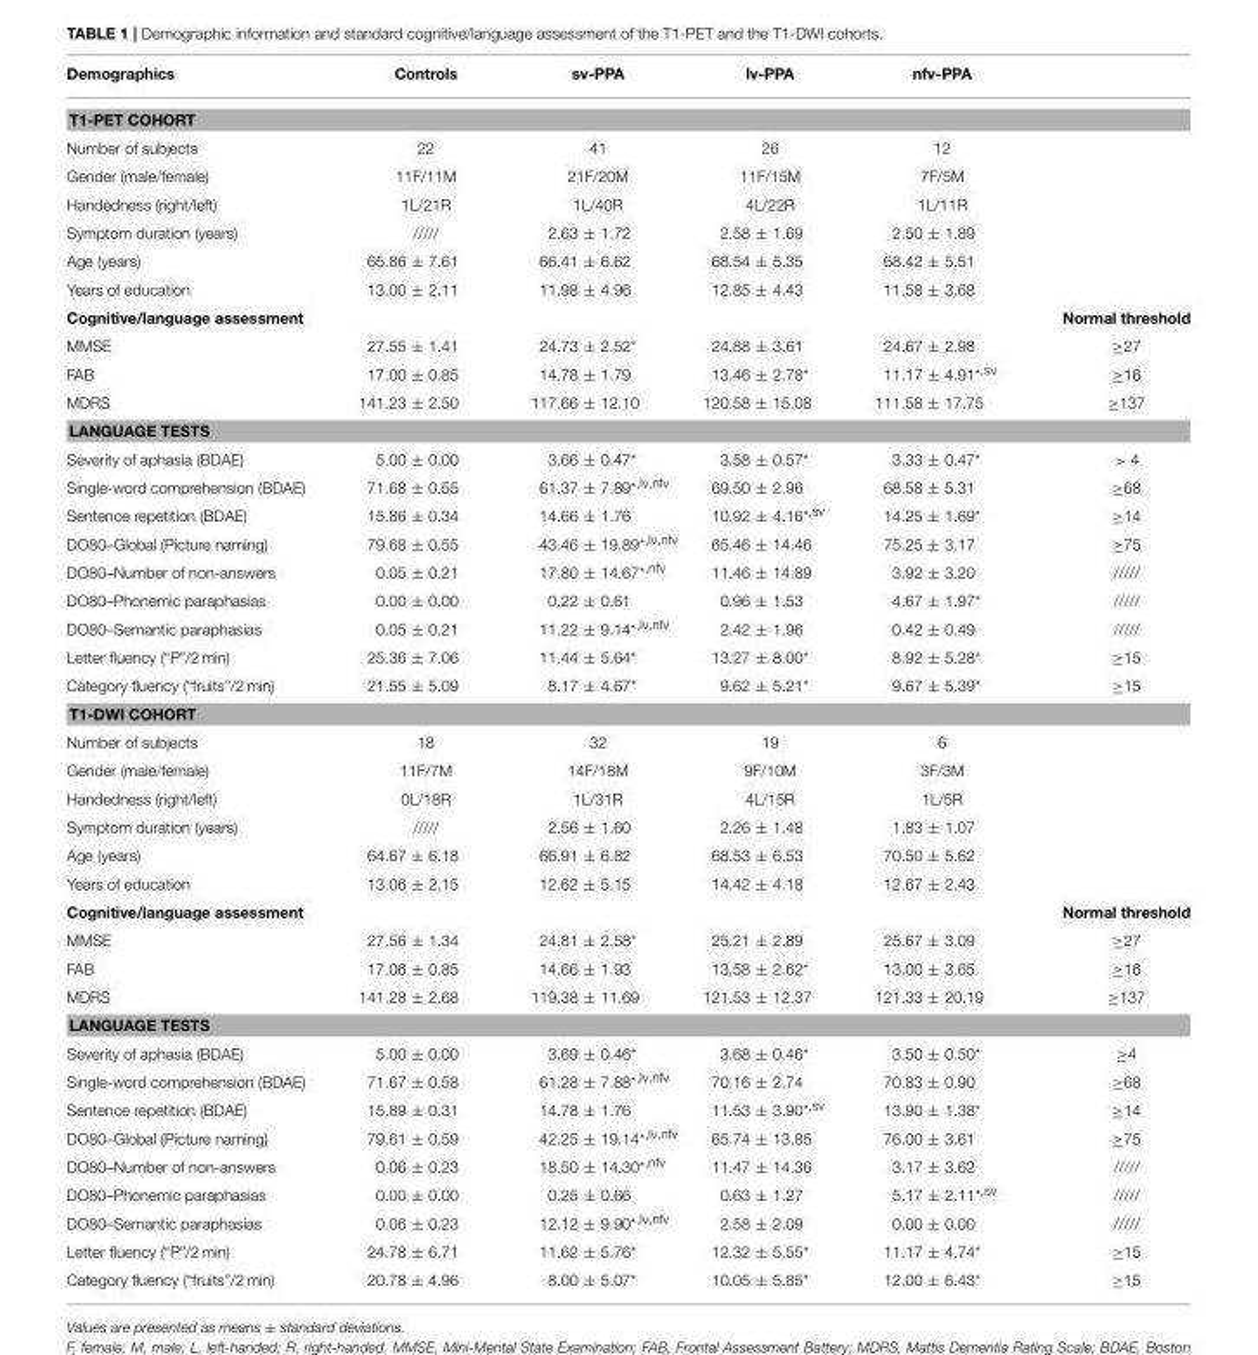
<table><thead><tr><td>Demographics</td><td>Controls</td><td>sv-PPA</td><td>lv-PPA</td><td>nfv-PPA</td><td></td></tr></thead><tbody><tr><td colspan="6">T1-PET COHORT</td></tr><tr><td>Number of subjects</td><td>22</td><td>41</td><td>26</td><td>12</td><td></td></tr><tr><td>Gender (male/female)</td><td>11F/11M</td><td>21F/20M</td><td>11F/15M</td><td>7F/5M</td><td></td></tr><tr><td>Handedness (right/left)</td><td>1L/21R</td><td>1L/40R</td><td>4L/22R</td><td>1L/11R</td><td></td></tr><tr><td>Symptom duration (years)</td><td>/////</td><td>2.63 ± 1.72</td><td>2.58 ± 1.69</td><td>2.50 ± 1.89</td><td></td></tr><tr><td>Age (years)</td><td>65.86 ± 7.61</td><td>66.41 ± 6.62</td><td>68.54 ± 5.35</td><td>68.42 ± 5.51</td><td></td></tr><tr><td>Years of education</td><td>13.00 ± 2.11</td><td>11.98 ± 4.96</td><td>12.85 ± 4.43</td><td>11.58 ± 3.68</td><td></td></tr><tr><td colspan="5">Cognitive/language assessment</td><td>Normal threshold</td></tr><tr><td>MMSE</td><td>27.55 ± 1.41</td><td>24.73 ± 2.52*</td><td>24.88 ± 3.61</td><td>24.67 ± 2.98</td><td>≥27</td></tr><tr><td>FAB</td><td>17.00 ± 0.85</td><td>14.78 ± 1.79</td><td>13.46 ± 2.78*</td><td>11.17 ± 4.91<sup>*,sv</sup></td><td>≥16</td></tr><tr><td>MDRS</td><td>141.23 ± 2.50</td><td>117.66 ± 12.10</td><td>120.58 ± 15.08</td><td>111.58 ± 17.75</td><td>≥137</td></tr><tr><td colspan="6">LANGUAGE TESTS</td></tr><tr><td>Severity of aphasia (BDAE)</td><td>5.00 ± 0.00</td><td>3.66 ± 0.47*</td><td>3.58 ± 0.57*</td><td>3.33 ± 0.47*</td><td>&gt; 4</td></tr><tr><td>Single-word comprehension (BDAE)</td><td>71.68 ± 0.55</td><td>61.37 ± 7.89<sup>*,lv,nfv</sup></td><td>69.50 ± 2.96</td><td>68.58 ± 5.31</td><td>≥68</td></tr><tr><td>Sentence repetition (BDAE)</td><td>15.86 ± 0.34</td><td>14.66 ± 1.76</td><td>10.92 ± 4.16<sup>*,sv</sup></td><td>14.25 ± 1.69*</td><td>≥14</td></tr><tr><td>DO80–Global (Picture naming)</td><td>79.68 ± 0.55</td><td>43.46 ± 19.89<sup>*,lv,nfv</sup></td><td>65.46 ± 14.46</td><td>75.25 ± 3.17</td><td>≥75</td></tr><tr><td>DO80–Number of non-answers</td><td>0.05 ± 0.21</td><td>17.80 ± 14.67<sup>*,nfv</sup></td><td>11.46 ± 14.89</td><td>3.92 ± 3.20</td><td>/////</td></tr><tr><td>DO80–Phonemic paraphasias</td><td>0.00 ± 0.00</td><td>0.22 ± 0.61</td><td>0.96 ± 1.53</td><td>4.67 ± 1.97*</td><td>/////</td></tr><tr><td>DO80–Semantic paraphasias</td><td>0.05 ± 0.21</td><td>11.22 ± 9.14<sup>*,lv,nfv</sup></td><td>2.42 ± 1.96</td><td>0.42 ± 0.49</td><td>/////</td></tr><tr><td>Letter fluency (“P”/2 min)</td><td>25.36 ± 7.06</td><td>11.44 ± 5.64*</td><td>13.27 ± 8.00*</td><td>8.92 ± 5.28*</td><td>≥15</td></tr><tr><td>Category fluency (“fruits”/2 min)</td><td>21.55 ± 5.09</td><td>8.17 ± 4.67*</td><td>9.62 ± 5.21*</td><td>9.67 ± 5.39*</td><td>≥15</td></tr><tr><td colspan="6">T1-DWI COHORT</td></tr><tr><td>Number of subjects</td><td>18</td><td>32</td><td>19</td><td>6</td><td></td></tr><tr><td>Gender (male/female)</td><td>11F/7M</td><td>14F/18M</td><td>9F/10M</td><td>3F/3M</td><td></td></tr><tr><td>Handedness (right/left)</td><td>0L/18R</td><td>1L/31R</td><td>4L/15R</td><td>1L/5R</td><td></td></tr><tr><td>Symptom duration (years)</td><td>/////</td><td>2.56 ± 1.60</td><td>2.26 ± 1.48</td><td>1.83 ± 1.07</td><td></td></tr><tr><td>Age (years)</td><td>64.67 ± 6.18</td><td>66.91 ± 6.82</td><td>68.53 ± 6.53</td><td>70.50 ± 5.62</td><td></td></tr><tr><td>Years of education</td><td>13.06 ± 2.15</td><td>12.62 ± 5.15</td><td>14.42 ± 4.18</td><td>12.67 ± 2.43</td><td></td></tr><tr><td colspan="5">Cognitive/language assessment</td><td>Normal threshold</td></tr><tr><td>MMSE</td><td>27.56 ± 1.34</td><td>24.81 ± 2.58*</td><td>25.21 ± 2.89</td><td>25.67 ± 3.09</td><td>≥27</td></tr><tr><td>FAB</td><td>17.06 ± 0.85</td><td>14.66 ± 1.93</td><td>13.58 ± 2.62*</td><td>13.00 ± 3.65</td><td>≥16</td></tr><tr><td>MDRS</td><td>141.28 ± 2.68</td><td>119.38 ± 11.69</td><td>121.53 ± 12.37</td><td>121.33 ± 20.19</td><td>≥137</td></tr><tr><td colspan="6">LANGUAGE TESTS</td></tr><tr><td>Severity of aphasia (BDAE)</td><td>5.00 ± 0.00</td><td>3.69 ± 0.46*</td><td>3.68 ± 0.46*</td><td>3.50 ± 0.50*</td><td>≥4</td></tr><tr><td>Single-word comprehension (BDAE)</td><td>71.67 ± 0.58</td><td>61.28 ± 7.88<sup>*,lv,nfv</sup></td><td>70.16 ± 2.74</td><td>70.83 ± 0.90</td><td>≥68</td></tr><tr><td>Sentence repetition (BDAE)</td><td>15.89 ± 0.31</td><td>14.78 ± 1.76</td><td>11.53 ± 3.90<sup>*,sv</sup></td><td>13.90 ± 1.38*</td><td>≥14</td></tr><tr><td>DO80–Global (Picture naming)</td><td>79.61 ± 0.59</td><td>42.25 ± 19.14<sup>*,lv,nfv</sup></td><td>65.74 ± 13.85</td><td>76.00 ± 3.61</td><td>≥75</td></tr><tr><td>DO80–Number of non-answers</td><td>0.06 ± 0.23</td><td>18.50 ± 14.30<sup>*,nfv</sup></td><td>11.47 ± 14.36</td><td>3.17 ± 3.62</td><td>/////</td></tr><tr><td>DO80–Phonemic paraphasias</td><td>0.00 ± 0.00</td><td>0.25 ± 0.66</td><td>0.63 ± 1.27</td><td>5.17 ± 2.11<sup>*,sv</sup></td><td>/////</td></tr><tr><td>DO80–Semantic paraphasias</td><td>0.06 ± 0.23</td><td>12.12 ± 9.90<sup>*,lv,nfv</sup></td><td>2.58 ± 2.09</td><td>0.00 ± 0.00</td><td>/////</td></tr><tr><td>Letter fluency (“P”/2 min)</td><td>24.78 ± 6.71</td><td>11.62 ± 5.76*</td><td>12.32 ± 5.55*</td><td>11.17 ± 4.74*</td><td>≥15</td></tr><tr><td>Category fluency (“fruits”/2 min)</td><td>20.78 ± 4.96</td><td>8.00 ± 5.07*</td><td>10.05 ± 5.85*</td><td>12.00 ± 6.43*</td><td>≥15</td></tr></tbody></table>